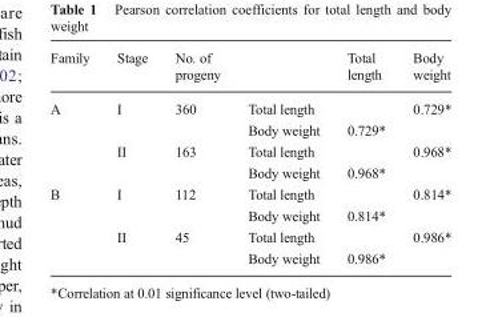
<table><thead><tr><td>Family</td><td>Stage</td><td>No. of progeny</td><td></td><td>Total length</td><td>Body weight</td></tr></thead><tbody><tr><td rowspan="4">A</td><td>I</td><td>360</td><td>Total length</td><td></td><td>0.729*</td></tr><tr><td></td><td></td><td>Body weight</td><td>0.729*</td><td></td></tr><tr><td>II</td><td>163</td><td>Total length</td><td></td><td>0.968*</td></tr><tr><td></td><td></td><td>Body weight</td><td>0.968*</td><td></td></tr><tr><td rowspan="4">B</td><td>I</td><td>112</td><td>Total length</td><td></td><td>0.814*</td></tr><tr><td></td><td></td><td>Body weight</td><td>0.814*</td><td></td></tr><tr><td>II</td><td>45</td><td>Total length</td><td></td><td>0.986*</td></tr><tr><td></td><td></td><td>Body weight</td><td>0.986*</td><td></td></tr></tbody></table>